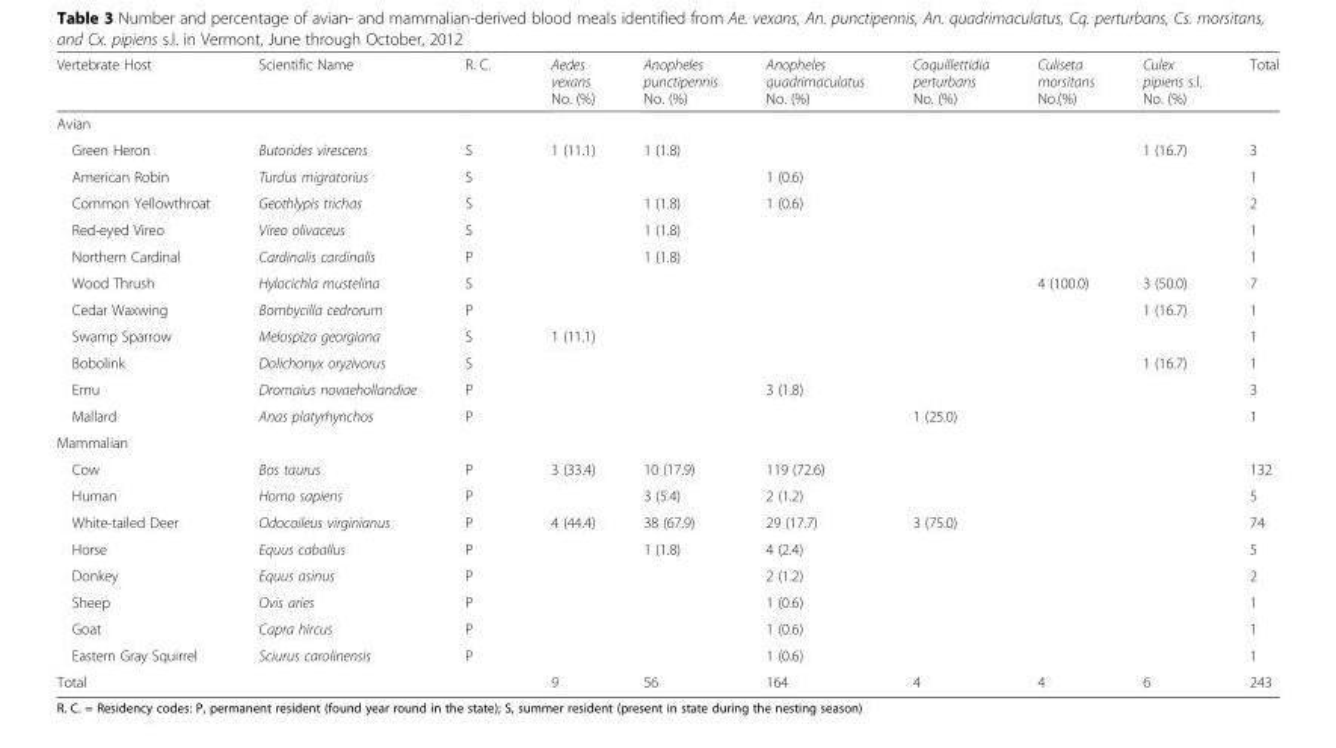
<table><thead><tr><td>Vertebrate Host</td><td>Scientific Name</td><td>R. C.</td><td>Aedes vexans No. (%)</td><td>Anopheles punctipennis No. (%)</td><td>Anopheles quadrimaculatus No. (%)</td><td>Coquillettidia perturbans No. (%)</td><td>Culiseta morsitans No.(%)</td><td>Culex pipiens s.l. No. (%)</td><td>Total</td></tr></thead><tbody><tr><td colspan="10">Avian</td></tr><tr><td>Green Heron</td><td>Butorides virescens</td><td>S</td><td>1 (11.1)</td><td>1 (1.8)</td><td></td><td></td><td></td><td>1 (16.7)</td><td>3</td></tr><tr><td>American Robin</td><td>Turdus migratorius</td><td>S</td><td></td><td></td><td>1 (0.6)</td><td></td><td></td><td></td><td>1</td></tr><tr><td>Common Yellowthroat</td><td>Geothlypis trichas</td><td>S</td><td></td><td>1 (1.8)</td><td>1 (0.6)</td><td></td><td></td><td></td><td>2</td></tr><tr><td>Red-eyed Vireo</td><td>Vireo olivaceus</td><td>S</td><td></td><td>1 (1.8)</td><td></td><td></td><td></td><td></td><td>1</td></tr><tr><td>Northern Cardinal</td><td>Cardinalis cardinalis</td><td>P</td><td></td><td>1 (1.8)</td><td></td><td></td><td></td><td></td><td>1</td></tr><tr><td>Wood Thrush</td><td>Hylocichla mustelina</td><td>S</td><td></td><td></td><td></td><td></td><td>4 (100.0)</td><td>3 (50.0)</td><td>7</td></tr><tr><td>Cedar Waxwing</td><td>Bombycilla cedrorum</td><td>P</td><td></td><td></td><td></td><td></td><td></td><td>1 (16.7)</td><td>1</td></tr><tr><td>Swamp Sparrow</td><td>Melospiza georgiana</td><td>S</td><td>1 (11.1)</td><td></td><td></td><td></td><td></td><td></td><td>1</td></tr><tr><td>Bobolink</td><td>Dolichonyx oryzivorus</td><td>S</td><td></td><td></td><td></td><td></td><td></td><td>1 (16.7)</td><td>1</td></tr><tr><td>Emu</td><td>Dromaius novaehollandiae</td><td>P</td><td></td><td></td><td>3 (1.8)</td><td></td><td></td><td></td><td>3</td></tr><tr><td>Mallard</td><td>Anas platyrhynchos</td><td>P</td><td></td><td></td><td></td><td>1 (25.0)</td><td></td><td></td><td>1</td></tr><tr><td colspan="10">Mammalian</td></tr><tr><td>Cow</td><td>Bos taurus</td><td>P</td><td>3 (33.4)</td><td>10 (17.9)</td><td>119 (72.6)</td><td></td><td></td><td></td><td>132</td></tr><tr><td>Human</td><td>Homo sapiens</td><td>P</td><td></td><td>3 (5.4)</td><td>2 (1.2)</td><td></td><td></td><td></td><td>5</td></tr><tr><td>White-tailed Deer</td><td>Odocoileus virginianus</td><td>P</td><td>4 (44.4)</td><td>38 (67.9)</td><td>29 (17.7)</td><td>3 (75.0)</td><td></td><td></td><td>74</td></tr><tr><td>Horse</td><td>Equus caballus</td><td>P</td><td></td><td>1 (1.8)</td><td>4 (2.4)</td><td></td><td></td><td></td><td>5</td></tr><tr><td>Donkey</td><td>Equus asinus</td><td>P</td><td></td><td></td><td>2 (1.2)</td><td></td><td></td><td></td><td>2</td></tr><tr><td>Sheep</td><td>Ovis aries</td><td>P</td><td></td><td></td><td>1 (0.6)</td><td></td><td></td><td></td><td>1</td></tr><tr><td>Goat</td><td>Capra hircus</td><td>P</td><td></td><td></td><td>1 (0.6)</td><td></td><td></td><td></td><td>1</td></tr><tr><td>Eastern Gray Squirrel</td><td>Sciurus carolinensis</td><td>P</td><td></td><td></td><td>1 (0.6)</td><td></td><td></td><td></td><td>1</td></tr><tr><td>Total</td><td></td><td></td><td>9</td><td>56</td><td>164</td><td>4</td><td>4</td><td>6</td><td>243</td></tr></tbody></table>